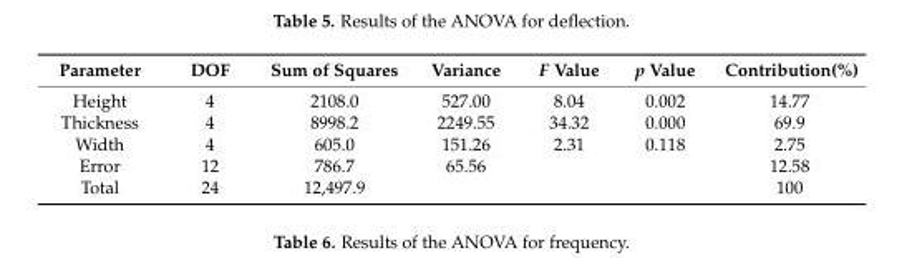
<table><thead><tr><td>Parameter</td><td>DOF</td><td>Sum of Squares</td><td>Variance</td><td>F Value</td><td>p Value</td><td>Contribution(%)</td></tr></thead><tbody><tr><td>Height</td><td>4</td><td>2108.0</td><td>527.00</td><td>8.04</td><td>0.002</td><td>14.77</td></tr><tr><td>Thickness</td><td>4</td><td>8998.2</td><td>2249.55</td><td>34.32</td><td>0.000</td><td>69.9</td></tr><tr><td>Width</td><td>4</td><td>605.0</td><td>151.26</td><td>2.31</td><td>0.118</td><td>2.75</td></tr><tr><td>Error</td><td>12</td><td>786.7</td><td>65.56</td><td></td><td></td><td>12.58</td></tr><tr><td>Total</td><td>24</td><td>12,497.9</td><td></td><td></td><td></td><td>100</td></tr></tbody></table>